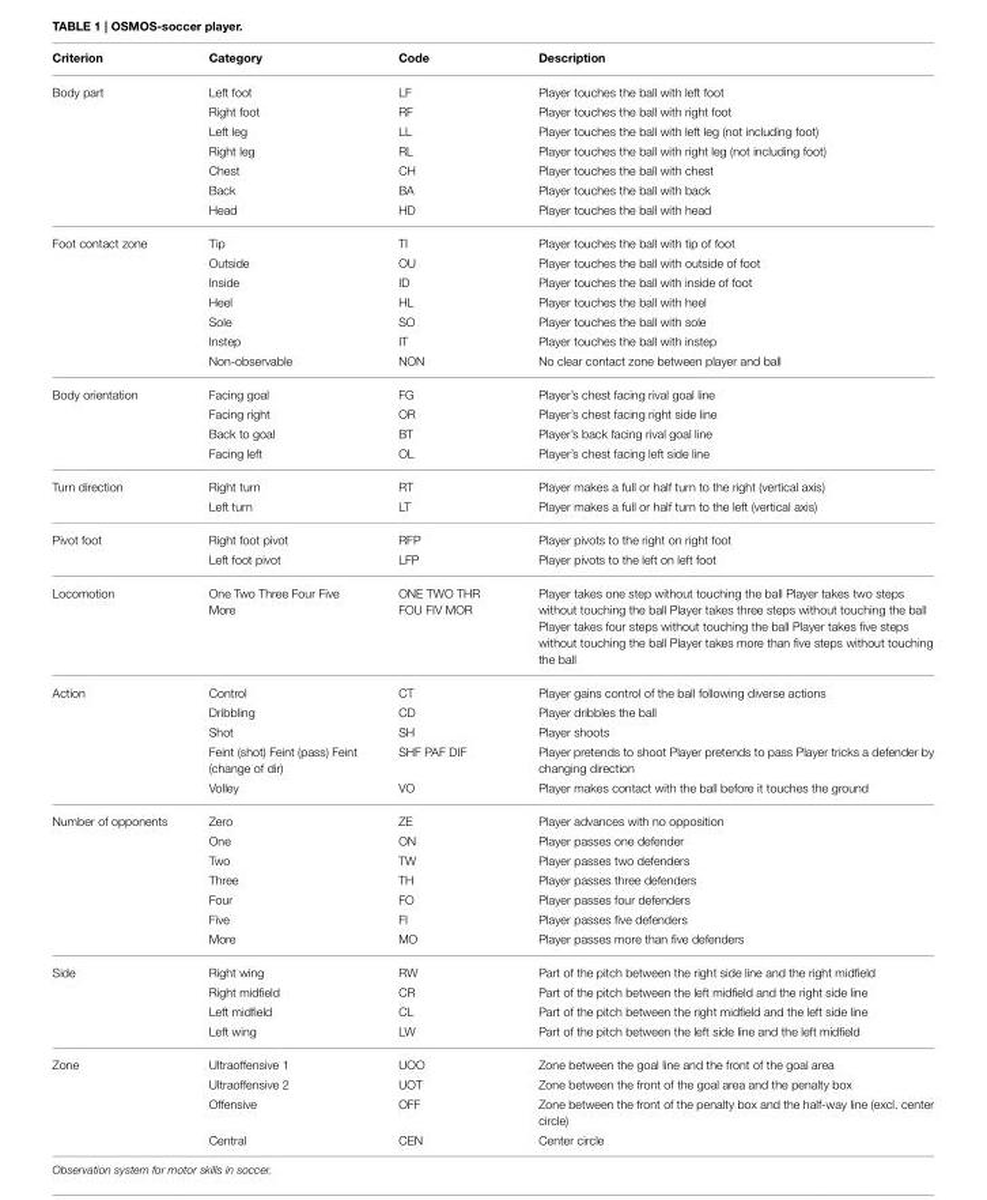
<table><thead><tr><td>Criterion</td><td>Category</td><td>Code</td><td>Description</td></tr></thead><tbody><tr><td rowspan="7">Body part</td><td>Left foot</td><td>LF</td><td>Player touches the ball with left foot</td></tr><tr><td>Right foot</td><td>RF</td><td>Player touches the ball with right foot</td></tr><tr><td>Left leg</td><td>LL</td><td>Player touches the ball with left leg (not including foot)</td></tr><tr><td>Right leg</td><td>RL</td><td>Player touches the ball with right leg (not including foot)</td></tr><tr><td>Chest</td><td>CH</td><td>Player touches the ball with chest</td></tr><tr><td>Back</td><td>BA</td><td>Player touches the ball with back</td></tr><tr><td>Head</td><td>HD</td><td>Player touches the ball with head</td></tr><tr><td rowspan="7">Foot contact zone</td><td>Tip</td><td>TI</td><td>Player touches the ball with tip of foot</td></tr><tr><td>Outside</td><td>OU</td><td>Player touches the ball with outside of foot</td></tr><tr><td>Inside</td><td>ID</td><td>Player touches the ball with inside of foot</td></tr><tr><td>Heel</td><td>HL</td><td>Player touches the ball with heel</td></tr><tr><td>Sole</td><td>SO</td><td>Player touches the ball with sole</td></tr><tr><td>Instep</td><td>IT</td><td>Player touches the ball with instep</td></tr><tr><td>Non-observable</td><td>NON</td><td>No clear contact zone between player and ball</td></tr><tr><td rowspan="4">Body orientation</td><td>Facing goal</td><td>FG</td><td>Player’s chest facing rival goal line</td></tr><tr><td>Facing right</td><td>OR</td><td>Player’s chest facing right side line</td></tr><tr><td>Back to goal</td><td>BT</td><td>Player’s back facing rival goal line</td></tr><tr><td>Facing left</td><td>OL</td><td>Player’s chest facing left side line</td></tr><tr><td rowspan="2">Turn direction</td><td>Right turn</td><td>RT</td><td>Player makes a full or half turn to the right (vertical axis)</td></tr><tr><td>Left turn</td><td>LT</td><td>Player makes a full or half turn to the left (vertical axis)</td></tr><tr><td rowspan="2">Pivot foot</td><td>Right foot pivot</td><td>RFP</td><td>Player pivots to the right on right foot</td></tr><tr><td>Left foot pivot</td><td>LFP</td><td>Player pivots to the left on left foot</td></tr><tr><td>Locomotion</td><td>One Two Three Four Five More</td><td>ONE TWO THR FOU FIV MOR</td><td>Player takes one step without touching the ball Player takes two steps without touching the ball Player takes three steps without touching the ball Player takes four steps without touching the ball Player takes five steps without touching the ball Player takes more than five steps without touching the ball</td></tr><tr><td rowspan="5">Action</td><td>Control</td><td>CT</td><td>Player gains control of the ball following diverse actions</td></tr><tr><td>Dribbling</td><td>CD</td><td>Player dribbles the ball</td></tr><tr><td>Shot</td><td>SH</td><td>Player shoots</td></tr><tr><td>Feint (shot) Feint (pass) Feint (change of dir)</td><td>SHF PAF DIF</td><td>Player pretends to shoot Player pretends to pass Player tricks a defender by changing direction</td></tr><tr><td>Volley</td><td>VO</td><td>Player makes contact with the ball before it touches the ground</td></tr><tr><td rowspan="7">Number of opponents</td><td>Zero</td><td>ZE</td><td>Player advances with no opposition</td></tr><tr><td>One</td><td>ON</td><td>Player passes one defender</td></tr><tr><td>Two</td><td>TW</td><td>Player passes two defenders</td></tr><tr><td>Three</td><td>TH</td><td>Player passes three defenders</td></tr><tr><td>Four</td><td>FO</td><td>Player passes four defenders</td></tr><tr><td>Five</td><td>FI</td><td>Player passes five defenders</td></tr><tr><td>More</td><td>MO</td><td>Player passes more than five defenders</td></tr><tr><td rowspan="4">Side</td><td>Right wing</td><td>RW</td><td>Part of the pitch between the right side line and the right midfield</td></tr><tr><td>Right midfield</td><td>CR</td><td>Part of the pitch between the left midfield and the right side line</td></tr><tr><td>Left midfield</td><td>CL</td><td>Part of the pitch between the right midfield and the left side line</td></tr><tr><td>Left wing</td><td>LW</td><td>Part of the pitch between the left side line and the left midfield</td></tr><tr><td rowspan="4">Zone</td><td>Ultraoffensive 1</td><td>UOO</td><td>Zone between the goal line and the front of the goal area</td></tr><tr><td>Ultraoffensive 2</td><td>UOT</td><td>Zone between the front of the goal area and the penalty box</td></tr><tr><td>Offensive</td><td>OFF</td><td>Zone between the front of the penalty box and the half-way line (excl. center circle)</td></tr><tr><td>Central</td><td>CEN</td><td>Center circle</td></tr></tbody></table>